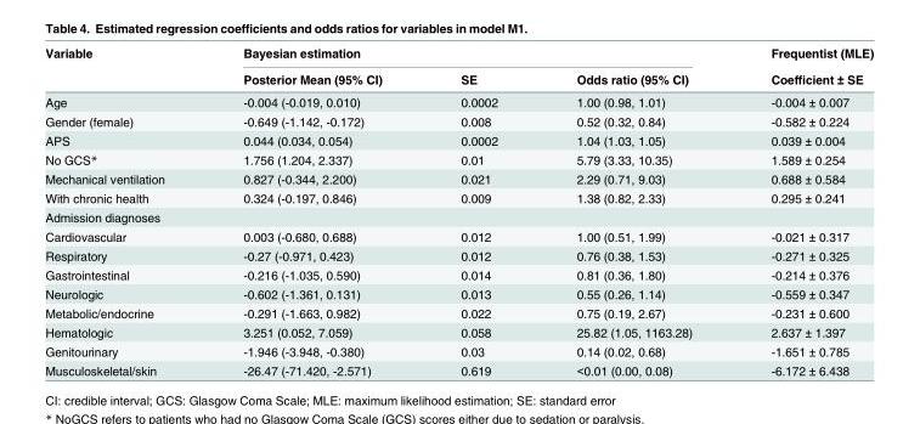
<table><thead><tr><td rowspan="2">Variable</td><td colspan="3">Bayesian estimation</td><td rowspan="2">Frequentist (MLE) Coefficient ± SE</td></tr><tr><td>Posterior Mean (95% CI)</td><td>SE</td><td>Odds ratio (95% CI)</td></tr></thead><tbody><tr><td>Age</td><td>-0.004 (-0.019, 0.010)</td><td>0.0002</td><td>1.00 (0.98, 1.01)</td><td>-0.004 ± 0.007</td></tr><tr><td>Gender (female)</td><td>-0.649 (-1.142, -0.172)</td><td>0.008</td><td>0.52 (0.32, 0.84)</td><td>-0.582 ± 0.224</td></tr><tr><td>APS</td><td>0.044 (0.034, 0.054)</td><td>0.0002</td><td>1.04 (1.03, 1.05)</td><td>0.039 ± 0.004</td></tr><tr><td>No GCS*</td><td>1.756 (1.204, 2.337)</td><td>0.01</td><td>5.79 (3.33, 10.35)</td><td>1.589 ± 0.254</td></tr><tr><td>Mechanical ventilation</td><td>0.827 (-0.344, 2.200)</td><td>0.021</td><td>2.29 (0.71, 9.03)</td><td>0.688 ± 0.584</td></tr><tr><td>With chronic health</td><td>0.324 (-0.197, 0.846)</td><td>0.009</td><td>1.38 (0.82, 2.33)</td><td>0.295 ± 0.241</td></tr><tr><td colspan="5">Admission diagnoses</td></tr><tr><td>Cardiovascular</td><td>0.003 (-0.680, 0.688)</td><td>0.012</td><td>1.00 (0.51, 1.99)</td><td>-0.021 ± 0.317</td></tr><tr><td>Respiratory</td><td>-0.27 (-0.971, 0.423)</td><td>0.012</td><td>0.76 (0.38, 1.53)</td><td>-0.271 ± 0.325</td></tr><tr><td>Gastrointestinal</td><td>-0.216 (-1.035, 0.590)</td><td>0.014</td><td>0.81 (0.36, 1.80)</td><td>-0.214 ± 0.376</td></tr><tr><td>Neurologic</td><td>-0.602 (-1.361, 0.131)</td><td>0.013</td><td>0.55 (0.26, 1.14)</td><td>-0.559 ± 0.347</td></tr><tr><td>Metabolic/endocrine</td><td>-0.291 (-1.663, 0.982)</td><td>0.022</td><td>0.75 (0.19, 2.67)</td><td>-0.231 ± 0.600</td></tr><tr><td>Hematologic</td><td>3.251 (0.052, 7.059)</td><td>0.058</td><td>25.82 (1.05, 1163.28)</td><td>2.637 ± 1.397</td></tr><tr><td>Genitourinary</td><td>-1.946 (-3.948, -0.380)</td><td>0.03</td><td>0.14 (0.02, 0.68)</td><td>-1.651 ± 0.785</td></tr><tr><td>Musculoskeletal/skin</td><td>-26.47 (-71.420, -2.571)</td><td>0.619</td><td>&lt;0.01 (0.00, 0.08)</td><td>-6.172 ± 6.438</td></tr></tbody></table>